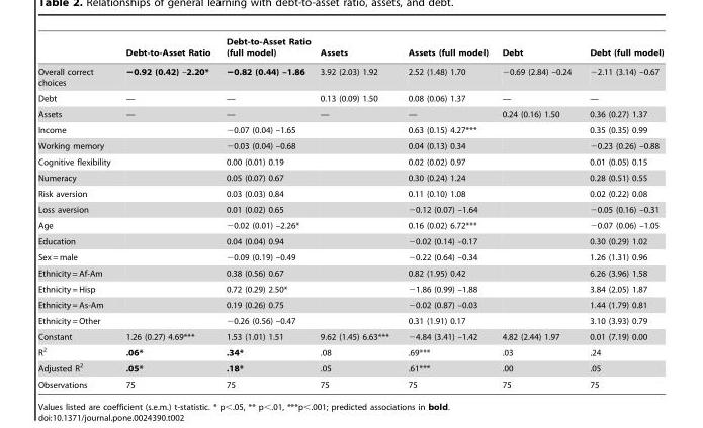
<table><thead><tr><td></td><td>Debt-to-Asset Ratio</td><td>Debt-to-Asset Ratio (full model)</td><td>Assets</td><td>Assets (full model)</td><td>Debt</td><td>Debt (full model)</td></tr></thead><tbody><tr><td>Overall correct choices</td><td>−0.92 (0.42) –2.20*</td><td>−0.82 (0.44) –1.86</td><td>3.92 (2.03) 1.92</td><td>2.52 (1.48) 1.70</td><td>−0.69 (2.84) –0.24</td><td>−2.11 (3.14) –0.67</td></tr><tr><td>Debt</td><td>—</td><td>—</td><td>0.13 (0.09) 1.50</td><td>0.08 (0.06) 1.37</td><td>—</td><td>—</td></tr><tr><td>Assets</td><td>—</td><td>—</td><td>—</td><td>—</td><td>0.24 (0.16) 1.50</td><td>0.36 (0.27) 1.37</td></tr><tr><td>Income</td><td></td><td>−0.07 (0.04) –1.65</td><td></td><td>0.63 (0.15) 4.27***</td><td></td><td>0.35 (0.35) 0.99</td></tr><tr><td>Working memory</td><td></td><td>−0.03 (0.04) –0.68</td><td></td><td>0.04 (0.13) 0.34</td><td></td><td>−0.23 (0.26) –0.88</td></tr><tr><td>Cognitive flexibility</td><td></td><td>0.00 (0.01) 0.19</td><td></td><td>0.02 (0.02) 0.97</td><td></td><td>0.01 (0.05) 0.15</td></tr><tr><td>Numeracy</td><td></td><td>0.05 (0.07) 0.67</td><td></td><td>0.30 (0.24) 1.24</td><td></td><td>0.28 (0.51) 0.55</td></tr><tr><td>Risk aversion</td><td></td><td>0.03 (0.03) 0.84</td><td></td><td>0.11 (0.10) 1.08</td><td></td><td>0.02 (0.22) 0.08</td></tr><tr><td>Loss aversion</td><td></td><td>0.01 (0.02) 0.65</td><td></td><td>−0.12 (0.07) –1.64</td><td></td><td>−0.05 (0.16) –0.31</td></tr><tr><td>Age</td><td></td><td>−0.02 (0.01) –2.26*</td><td></td><td>0.16 (0.02) 6.72***</td><td></td><td>−0.07 (0.06) –1.05</td></tr><tr><td>Education</td><td></td><td>0.04 (0.04) 0.94</td><td></td><td>−0.02 (0.14) –0.17</td><td></td><td>0.30 (0.29) 1.02</td></tr><tr><td>Sex = male</td><td></td><td>−0.09 (0.19) –0.49</td><td></td><td>−0.22 (0.64) –0.34</td><td></td><td>1.26 (1.31) 0.96</td></tr><tr><td>Ethnicity = Af-Am</td><td></td><td>0.38 (0.56) 0.67</td><td></td><td>0.82 (1.95) 0.42</td><td></td><td>6.26 (3.96) 1.58</td></tr><tr><td>Ethnicity = Hisp</td><td></td><td>0.72 (0.29) 2.50*</td><td></td><td>−1.86 (0.99) –1.88</td><td></td><td>3.84 (2.05) 1.87</td></tr><tr><td>Ethnicity = As-Am</td><td></td><td>0.19 (0.26) 0.75</td><td></td><td>−0.02 (0.87) –0.03</td><td></td><td>1.44 (1.79) 0.81</td></tr><tr><td>Ethnicity = Other</td><td></td><td>−0.26 (0.56) –0.47</td><td></td><td>0.31 (1.91) 0.17</td><td></td><td>3.10 (3.93) 0.79</td></tr><tr><td>Constant</td><td>1.26 (0.27) 4.69***</td><td>1.53 (1.01) 1.51</td><td>9.62 (1.45) 6.63***</td><td>−4.84 (3.41) –1.42</td><td>4.82 (2.44) 1.97</td><td>0.01 (7.19) 0.00</td></tr><tr><td>R<sup>2</sup></td><td>.06*</td><td>.34*</td><td>.08</td><td>.69***</td><td>.03</td><td>.24</td></tr><tr><td>Adjusted R<sup>2</sup></td><td>.05*</td><td>.18*</td><td>.05</td><td>.61***</td><td>.00</td><td>.05</td></tr><tr><td>Observations</td><td>75</td><td>75</td><td>75</td><td>75</td><td>75</td><td>75</td></tr></tbody></table>